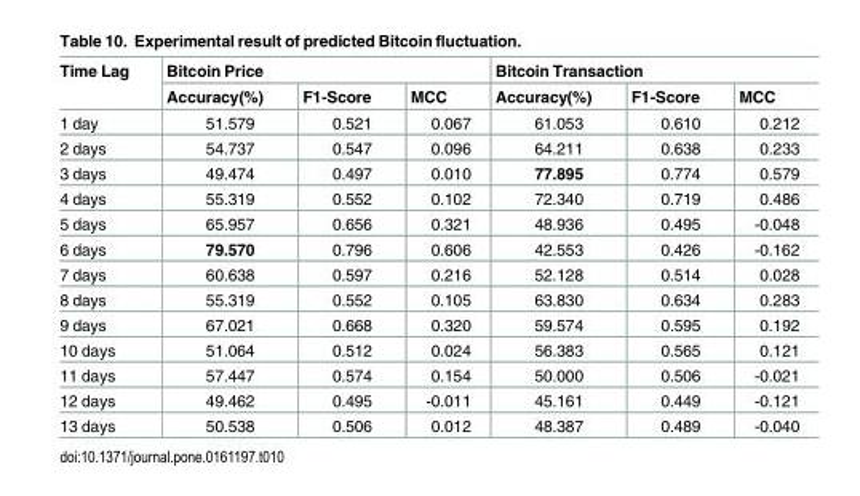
<table><thead><tr><td rowspan="2">Time Lag</td><td colspan="3">Bitcoin Price</td><td colspan="3">Bitcoin Transaction</td></tr><tr><td>Accuracy(%)</td><td>F1-Score</td><td>MCC</td><td>Accuracy(%)</td><td>F1-Score</td><td>MCC</td></tr></thead><tbody><tr><td>1 day</td><td>51.579</td><td>0.521</td><td>0.067</td><td>61.053</td><td>0.610</td><td>0.212</td></tr><tr><td>2 days</td><td>54.737</td><td>0.547</td><td>0.096</td><td>64.211</td><td>0.638</td><td>0.233</td></tr><tr><td>3 days</td><td>49.474</td><td>0.497</td><td>0.010</td><td>77.895</td><td>0.774</td><td>0.579</td></tr><tr><td>4 days</td><td>55.319</td><td>0.552</td><td>0.102</td><td>72.340</td><td>0.719</td><td>0.486</td></tr><tr><td>5 days</td><td>65.957</td><td>0.656</td><td>0.321</td><td>48.936</td><td>0.495</td><td>-0.048</td></tr><tr><td>6 days</td><td>79.570</td><td>0.796</td><td>0.606</td><td>42.553</td><td>0.426</td><td>-0.162</td></tr><tr><td>7 days</td><td>60.638</td><td>0.597</td><td>0.216</td><td>52.128</td><td>0.514</td><td>0.028</td></tr><tr><td>8 days</td><td>55.319</td><td>0.552</td><td>0.105</td><td>63.830</td><td>0.634</td><td>0.283</td></tr><tr><td>9 days</td><td>67.021</td><td>0.668</td><td>0.320</td><td>59.574</td><td>0.595</td><td>0.192</td></tr><tr><td>10 days</td><td>51.064</td><td>0.512</td><td>0.024</td><td>56.383</td><td>0.565</td><td>0.121</td></tr><tr><td>11 days</td><td>57.447</td><td>0.574</td><td>0.154</td><td>50.000</td><td>0.506</td><td>-0.021</td></tr><tr><td>12 days</td><td>49.462</td><td>0.495</td><td>-0.011</td><td>45.161</td><td>0.449</td><td>-0.121</td></tr><tr><td>13 days</td><td>50.538</td><td>0.506</td><td>0.012</td><td>48.387</td><td>0.489</td><td>-0.040</td></tr></tbody></table>